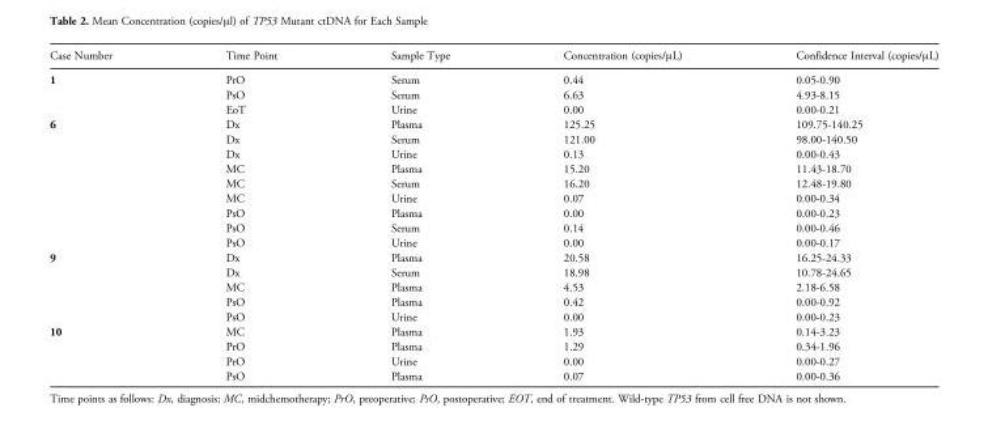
<table><thead><tr><td>Case Number</td><td>Time Point</td><td>Sample Type</td><td>Concentration (copies/μL)</td><td>Confidence Interval (copies/μL)</td></tr></thead><tbody><tr><td rowspan="3">1</td><td>PrO</td><td>Serum</td><td>0.44</td><td>0.05-0.90</td></tr><tr><td>PsO</td><td>Serum</td><td>6.63</td><td>4.93-8.15</td></tr><tr><td>EoT</td><td>Urine</td><td>0.00</td><td>0.00-0.21</td></tr><tr><td rowspan="9">6</td><td>Dx</td><td>Plasma</td><td>125.25</td><td>109.75-140.25</td></tr><tr><td>Dx</td><td>Serum</td><td>121.00</td><td>98.00-140.50</td></tr><tr><td>Dx</td><td>Urine</td><td>0.13</td><td>0.00-0.43</td></tr><tr><td>MC</td><td>Plasma</td><td>15.20</td><td>11.43-18.70</td></tr><tr><td>MC</td><td>Serum</td><td>16.20</td><td>12.48-19.80</td></tr><tr><td>MC</td><td>Urine</td><td>0.07</td><td>0.00-0.34</td></tr><tr><td>PsO</td><td>Plasma</td><td>0.00</td><td>0.00-0.23</td></tr><tr><td>PsO</td><td>Serum</td><td>0.14</td><td>0.00-0.46</td></tr><tr><td>PsO</td><td>Urine</td><td>0.00</td><td>0.00-0.17</td></tr><tr><td rowspan="5">9</td><td>Dx</td><td>Plasma</td><td>20.58</td><td>16.25-24.33</td></tr><tr><td>Dx</td><td>Serum</td><td>18.98</td><td>10.78-24.65</td></tr><tr><td>MC</td><td>Plasma</td><td>4.53</td><td>2.18-6.58</td></tr><tr><td>PsO</td><td>Plasma</td><td>0.42</td><td>0.00-0.92</td></tr><tr><td>PsO</td><td>Urine</td><td>0.00</td><td>0.00-0.23</td></tr><tr><td rowspan="4">10</td><td>MC</td><td>Plasma</td><td>1.93</td><td>0.14-3.23</td></tr><tr><td>PrO</td><td>Plasma</td><td>1.29</td><td>0.34-1.96</td></tr><tr><td>PrO</td><td>Urine</td><td>0.00</td><td>0.00-0.27</td></tr><tr><td>PsO</td><td>Plasma</td><td>0.07</td><td>0.00-0.36</td></tr></tbody></table>